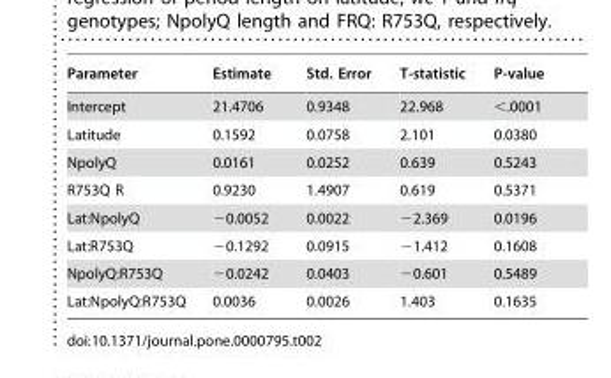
<table><thead><tr><td>Parameter</td><td>Estimate</td><td>Std. Error</td><td>T-statistic</td><td>P-value</td></tr></thead><tbody><tr><td>Intercept</td><td>21.4706</td><td>0.9348</td><td>22.968</td><td>&lt;.0001</td></tr><tr><td>Latitude</td><td>0.1592</td><td>0.0758</td><td>2.101</td><td>0.0380</td></tr><tr><td>NpolyQ</td><td>0.0161</td><td>0.0252</td><td>0.639</td><td>0.5243</td></tr><tr><td>R753Q R</td><td>0.9230</td><td>1.4907</td><td>0.619</td><td>0.5371</td></tr><tr><td>Lat:NpolyQ</td><td>−0.0052</td><td>0.0022</td><td>−2.369</td><td>0.0196</td></tr><tr><td>Lat:R753Q</td><td>−0.1292</td><td>0.0915</td><td>−1.412</td><td>0.1608</td></tr><tr><td>NpolyQ:R753Q</td><td>−0.0242</td><td>0.0403</td><td>−0.601</td><td>0.5489</td></tr><tr><td>Lat:NpolyQ:R753Q</td><td>0.0036</td><td>0.0026</td><td>1.403</td><td>0.1635</td></tr></tbody></table>